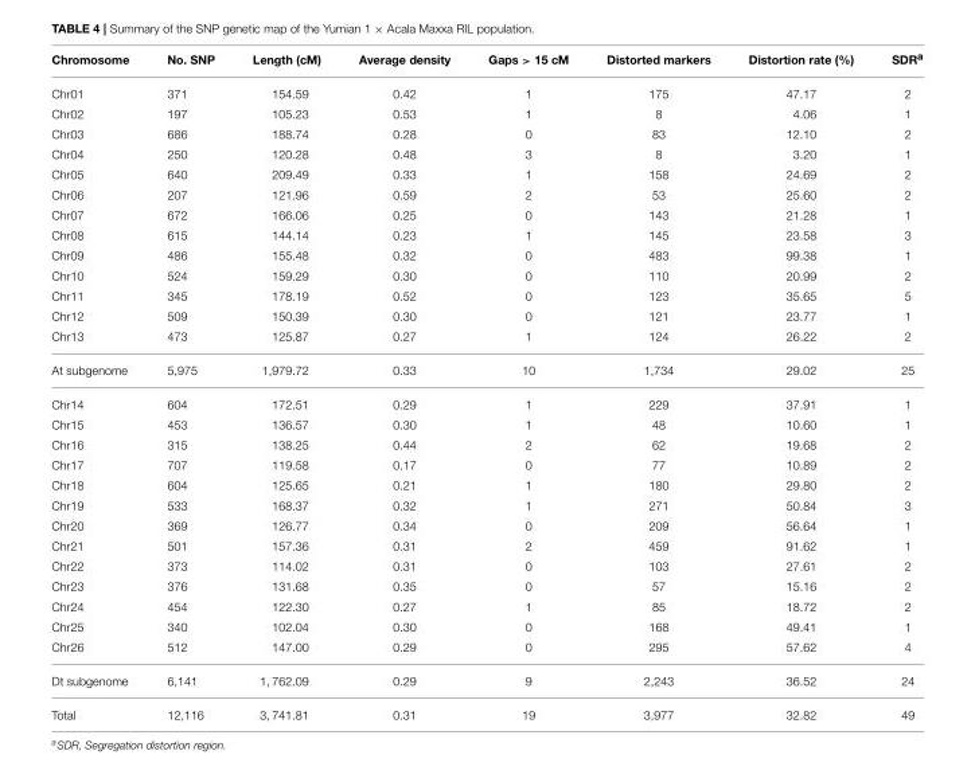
<table><thead><tr><td>Chromosome</td><td>No. SNP</td><td>Length (cM)</td><td>Average density</td><td>Gaps &gt; 15 cM</td><td>Distorted markers</td><td>Distortion rate (%)</td><td>SDR<sup>a</sup></td></tr></thead><tbody><tr><td>Chr01</td><td>371</td><td>154.59</td><td>0.42</td><td>1</td><td>175</td><td>47.17</td><td>2</td></tr><tr><td>Chr02</td><td>197</td><td>105.23</td><td>0.53</td><td>1</td><td>8</td><td>4.06</td><td>1</td></tr><tr><td>Chr03</td><td>686</td><td>188.74</td><td>0.28</td><td>0</td><td>83</td><td>12.10</td><td>2</td></tr><tr><td>Chr04</td><td>250</td><td>120.28</td><td>0.48</td><td>3</td><td>8</td><td>3.20</td><td>1</td></tr><tr><td>Chr05</td><td>640</td><td>209.49</td><td>0.33</td><td>1</td><td>158</td><td>24.69</td><td>2</td></tr><tr><td>Chr06</td><td>207</td><td>121.96</td><td>0.59</td><td>2</td><td>53</td><td>25.60</td><td>2</td></tr><tr><td>Chr07</td><td>672</td><td>166.06</td><td>0.25</td><td>0</td><td>143</td><td>21.28</td><td>1</td></tr><tr><td>Chr08</td><td>615</td><td>144.14</td><td>0.23</td><td>1</td><td>145</td><td>23.58</td><td>3</td></tr><tr><td>Chr09</td><td>486</td><td>155.48</td><td>0.32</td><td>0</td><td>483</td><td>99.38</td><td>1</td></tr><tr><td>Chr10</td><td>524</td><td>159.29</td><td>0.30</td><td>0</td><td>110</td><td>20.99</td><td>2</td></tr><tr><td>Chr11</td><td>345</td><td>178.19</td><td>0.52</td><td>0</td><td>123</td><td>35.65</td><td>5</td></tr><tr><td>Chr12</td><td>509</td><td>150.39</td><td>0.30</td><td>0</td><td>121</td><td>23.77</td><td>1</td></tr><tr><td>Chr13</td><td>473</td><td>125.87</td><td>0.27</td><td>1</td><td>124</td><td>26.22</td><td>2</td></tr><tr><td>At subgenome</td><td>5,975</td><td>1,979.72</td><td>0.33</td><td>10</td><td>1,734</td><td>29.02</td><td>25</td></tr><tr><td>Chr14</td><td>604</td><td>172.51</td><td>0.29</td><td>1</td><td>229</td><td>37.91</td><td>1</td></tr><tr><td>Chr15</td><td>453</td><td>136.57</td><td>0.30</td><td>1</td><td>48</td><td>10.60</td><td>1</td></tr><tr><td>Chr16</td><td>315</td><td>138.25</td><td>0.44</td><td>2</td><td>62</td><td>19.68</td><td>2</td></tr><tr><td>Chr17</td><td>707</td><td>119.58</td><td>0.17</td><td>0</td><td>77</td><td>10.89</td><td>2</td></tr><tr><td>Chr18</td><td>604</td><td>125.65</td><td>0.21</td><td>1</td><td>180</td><td>29.80</td><td>2</td></tr><tr><td>Chr19</td><td>533</td><td>168.37</td><td>0.32</td><td>1</td><td>271</td><td>50.84</td><td>3</td></tr><tr><td>Chr20</td><td>369</td><td>126.77</td><td>0.34</td><td>0</td><td>209</td><td>56.64</td><td>1</td></tr><tr><td>Chr21</td><td>501</td><td>157.36</td><td>0.31</td><td>2</td><td>459</td><td>91.62</td><td>1</td></tr><tr><td>Chr22</td><td>373</td><td>114.02</td><td>0.31</td><td>0</td><td>103</td><td>27.61</td><td>2</td></tr><tr><td>Chr23</td><td>376</td><td>131.68</td><td>0.35</td><td>0</td><td>57</td><td>15.16</td><td>2</td></tr><tr><td>Chr24</td><td>454</td><td>122.30</td><td>0.27</td><td>1</td><td>85</td><td>18.72</td><td>2</td></tr><tr><td>Chr25</td><td>340</td><td>102.04</td><td>0.30</td><td>0</td><td>168</td><td>49.41</td><td>1</td></tr><tr><td>Chr26</td><td>512</td><td>147.00</td><td>0.29</td><td>0</td><td>295</td><td>57.62</td><td>4</td></tr><tr><td>Dt subgenome</td><td>6,141</td><td>1, 762.09</td><td>0.29</td><td>9</td><td>2,243</td><td>36.52</td><td>24</td></tr><tr><td>Total</td><td>12,116</td><td>3, 741.81</td><td>0.31</td><td>19</td><td>3,977</td><td>32.82</td><td>49</td></tr></tbody></table>